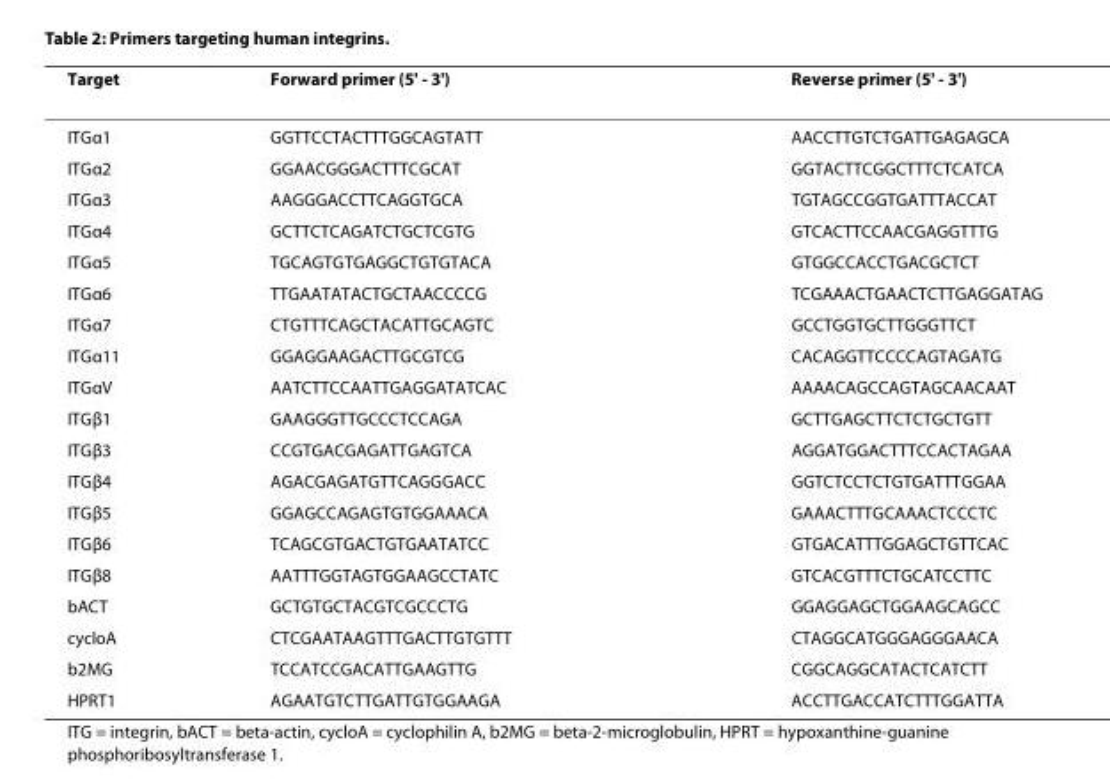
<table><thead><tr><td>Target</td><td>Forward primer (5&#x27; - 3&#x27;)</td><td>Reverse primer (5&#x27; - 3&#x27;)</td></tr></thead><tbody><tr><td>ITGα1</td><td>GGTTCCTACTTTGGCAGTATT</td><td>AACCTTGTCTGATTGAGAGCA</td></tr><tr><td>ITGα2</td><td>GGAACGGGACTTTCGCAT</td><td>GGTACTTCGGCTTTCTCATCA</td></tr><tr><td>ITGα3</td><td>AAGGGACCTTCAGGTGCA</td><td>TGTAGCCGGTGATTTACCAT</td></tr><tr><td>ITGα4</td><td>GCTTCTCAGATCTGCTCGTG</td><td>GTCACTTCCAACGAGGTTTG</td></tr><tr><td>ITGα5</td><td>TGCAGTGTGAGGCTGTGTACA</td><td>GTGGCCACCTGACGCTCT</td></tr><tr><td>ITGα6</td><td>TTGAATATACTGCTAACCCCG</td><td>TCGAAACTGAACTCTTGAGGATAG</td></tr><tr><td>ITGα7</td><td>CTGTTTCAGCTACATTGCAGTC</td><td>GCCTGGTGCTTGGGTTCT</td></tr><tr><td>ITGα11</td><td>GGAGGAAGACTTGCGTCG</td><td>CACAGGTTCCCCAGTAGATG</td></tr><tr><td>ITGαV</td><td>AATCTTCCAATTGAGGATATCAC</td><td>AAAACAGCCAGTAGCAACAAT</td></tr><tr><td>ITGβ1</td><td>GAAGGGTTGCCCTCCAGA</td><td>GCTTGAGCTTCTCTGCTGTT</td></tr><tr><td>ITGβ3</td><td>CCGTGACGAGATTGAGTCA</td><td>AGGATGGACTTTCCACTAGAA</td></tr><tr><td>ITGβ4</td><td>AGACGAGATGTTCAGGGACC</td><td>GGTCTCCTCTGTGATTTGGAA</td></tr><tr><td>ITGβ5</td><td>GGAGCCAGAGTGTGGAAACA</td><td>GAAACTTTGCAAACTCCCTC</td></tr><tr><td>ITGβ6</td><td>TCAGCGTGACTGTGAATATCC</td><td>GTGACATTTGGAGCTGTTCAC</td></tr><tr><td>ITGβ8</td><td>AATTTGGTAGTGGAAGCCTATC</td><td>GTCACGTTTCTGCATCCTTC</td></tr><tr><td>bACT</td><td>GCTGTGCTACGTCGCCCTG</td><td>GGAGGAGCTGGAAGCAGCC</td></tr><tr><td>cycloA</td><td>CTCGAATAAGTTTGACTTGTGTTT</td><td>CTAGGCATGGGAGGGAACA</td></tr><tr><td>b2MG</td><td>TCCATCCGACATTGAAGTTG</td><td>CGGCAGGCATACTCATCTT</td></tr><tr><td>HPRT1</td><td>AGAATGTCTTGATTGTGGAAGA</td><td>ACCTTGACCATCTTTGGATTA</td></tr></tbody></table>